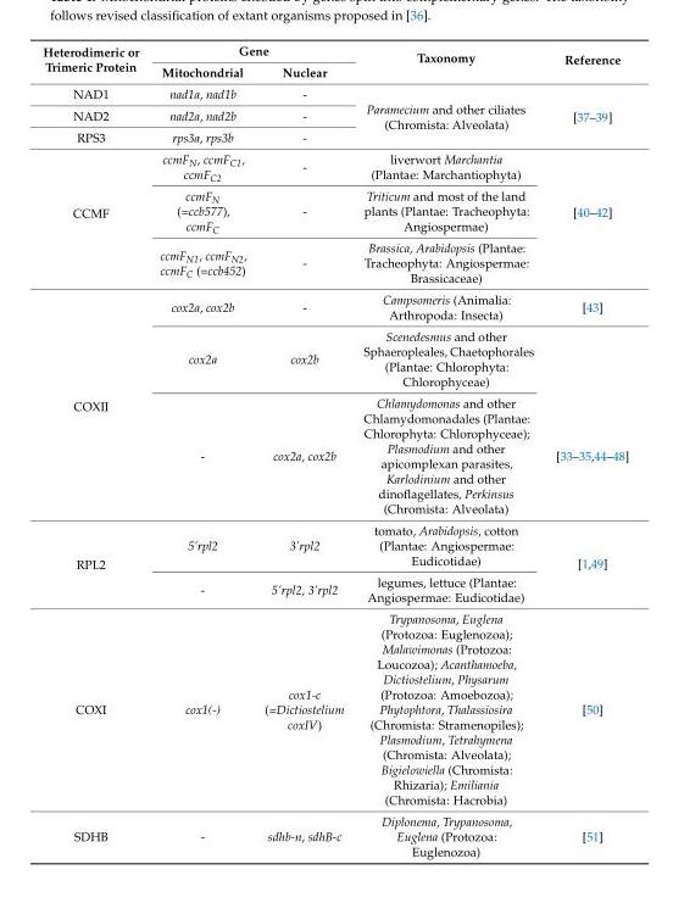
<table><thead><tr><td rowspan="2">Heterodimeric or Trimeric Protein</td><td colspan="2">Gene</td><td rowspan="2">Taxonomy</td><td rowspan="2">Reference</td></tr><tr><td>Mitochondrial</td><td>Nuclear</td></tr></thead><tbody><tr><td>NAD1</td><td>nad1a, nad1b</td><td>-</td><td rowspan="3">Paramecium and other ciliates (Chromista: Alveolata)</td><td rowspan="3">[37–39]</td></tr><tr><td>NAD2</td><td>nad2a, nad2b</td><td>-</td></tr><tr><td>RPS3</td><td>rps3a, rps3b</td><td>-</td></tr><tr><td rowspan="3">CCMF</td><td>ccmF<sub>N</sub>, ccmF<sub>C1</sub>, ccmF<sub>C2</sub></td><td>-</td><td>liverwort Marchantia (Plantae: Marchantiophyta)</td><td rowspan="3">[40–42]</td></tr><tr><td>ccmF<sub>N</sub> (=ccb577), ccmF<sub>C</sub></td><td>-</td><td>Triticum and most of the land plants (Plantae: Tracheophyta: Angiospermae)</td></tr><tr><td>ccmF<sub>N1</sub>, ccmF<sub>N2</sub>, ccmF<sub>C</sub> (=ccb452)</td><td>-</td><td>Brassica, Arabidopsis (Plantae: Tracheophyta: Angiospermae: Brassicaceae)</td></tr><tr><td rowspan="3">COXII</td><td>cox2a, cox2b</td><td>-</td><td>Campsomeris (Animalia: Arthropoda: Insecta)</td><td>[43]</td></tr><tr><td>cox2a</td><td>cox2b</td><td>Scenedesmus and other Sphaeropleales, Chaetophorales (Plantae: Chlorophyta: Chlorophyceae)</td><td></td></tr><tr><td>-</td><td>cox2a, cox2b</td><td>Chlamydomonas and other Chlamydomonadales (Plantae: Chlorophyta: Chlorophyceae); Plasmodium and other apicomplexan parasites, Karlodinium and other dinoflagellates, Perkinsus (Chromista: Alveolata)</td><td>[33–35,44–48]</td></tr><tr><td rowspan="2">RPL2</td><td>5’rpl2</td><td>3’rpl2</td><td>tomato, Arabidopsis, cotton (Plantae: Angiospermae: Eudicotidae)</td><td rowspan="2">[1,49]</td></tr><tr><td>-</td><td>5’rpl2, 3’rpl2</td><td>legumes, lettuce (Plantae: Angiospermae: Eudicotidae)</td></tr><tr><td>COXI</td><td>cox1(-)</td><td>cox1-c (=Dictiostelium coxIV)</td><td>Trypanosoma, Euglena (Protozoa: Euglenozoa); Malawimonas (Protozoa: Loucozoa); Acanthamoeba, Dictiostelium, Physarum (Protozoa: Amoebozoa); Phytophtora, Thalassiosira (Chromista: Stramenopiles); Plasmodium, Tetrahymena (Chromista: Alveolata); Bigielowiella (Chromista: Rhizaria); Emiliania (Chromista: Hacrobia)</td><td>[50]</td></tr><tr><td>SDHB</td><td>-</td><td>sdhb-n, sdhB-c</td><td>Diplonema, Trypanosoma, Euglena (Protozoa: Euglenozoa)</td><td>[51]</td></tr></tbody></table>